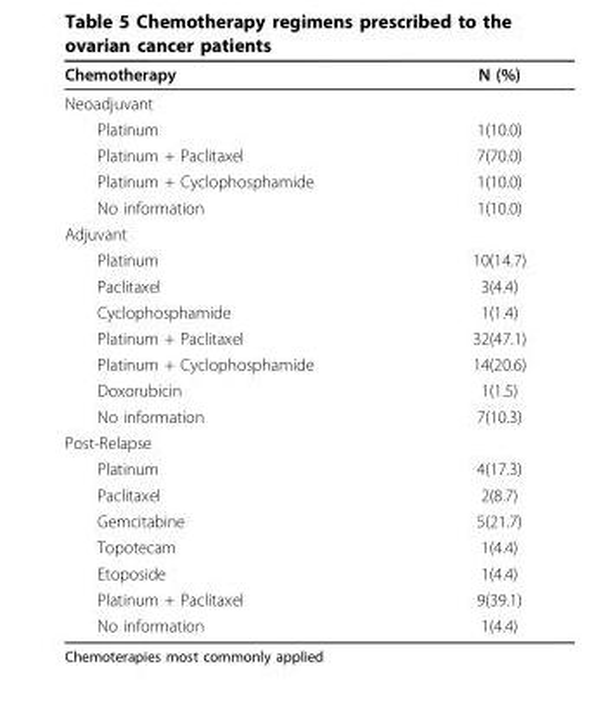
<table><thead><tr><td>Chemotherapy</td><td>N (%)</td></tr></thead><tbody><tr><td colspan="2">Neoadjuvant</td></tr><tr><td>Platinum</td><td>1(10.0)</td></tr><tr><td>Platinum + Paclitaxel</td><td>7(70.0)</td></tr><tr><td>Platinum + Cyclophosphamide</td><td>1(10.0)</td></tr><tr><td>No information</td><td>1(10.0)</td></tr><tr><td colspan="2">Adjuvant</td></tr><tr><td>Platinum</td><td>10(14.7)</td></tr><tr><td>Paclitaxel</td><td>3(4.4)</td></tr><tr><td>Cyclophosphamide</td><td>1(1.4)</td></tr><tr><td>Platinum + Paclitaxel</td><td>32(47.1)</td></tr><tr><td>Platinum + Cyclophosphamide</td><td>14(20.6)</td></tr><tr><td>Doxorubicin</td><td>1(1.5)</td></tr><tr><td>No information</td><td>7(10.3)</td></tr><tr><td colspan="2">Post-Relapse</td></tr><tr><td>Platinum</td><td>4(17.3)</td></tr><tr><td>Paclitaxel</td><td>2(8.7)</td></tr><tr><td>Gemcitabine</td><td>5(21.7)</td></tr><tr><td>Topotecam</td><td>1(4.4)</td></tr><tr><td>Etoposide</td><td>1(4.4)</td></tr><tr><td>Platinum + Paclitaxel</td><td>9(39.1)</td></tr><tr><td>No information</td><td>1(4.4)</td></tr></tbody></table>